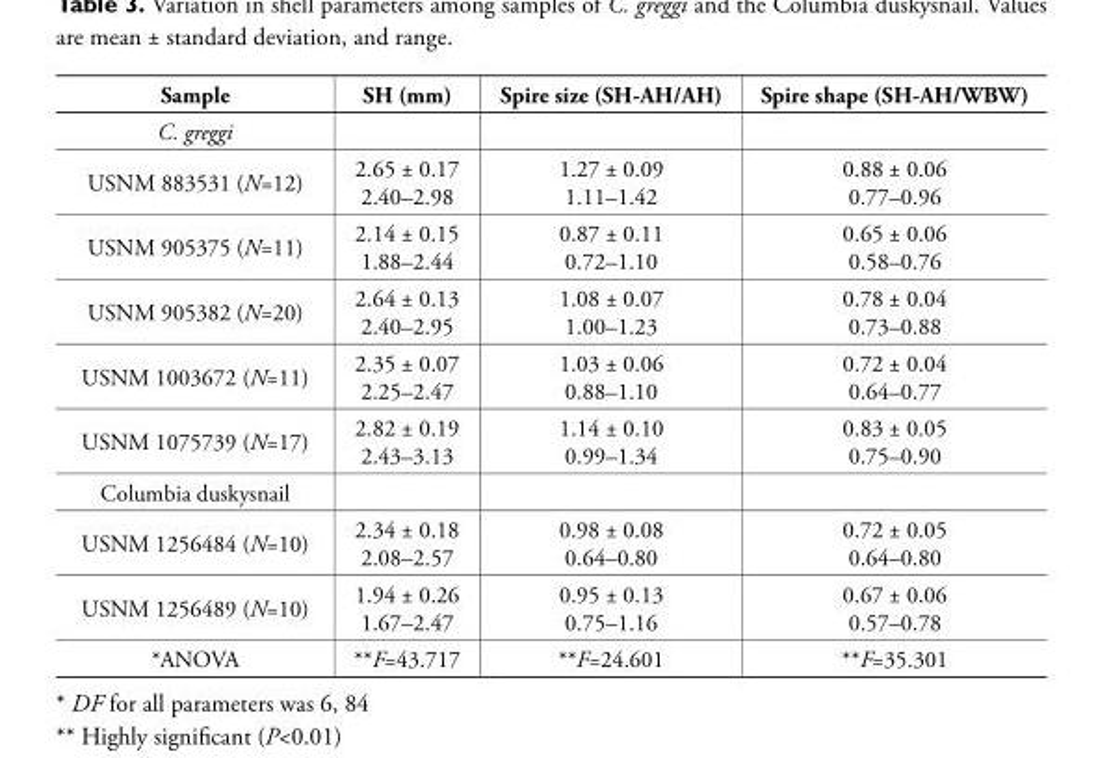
<table><tbody><tr><td>Sample</td><td>SH (mm)</td><td>Spire size (SH-AH/AH)</td><td>Spire shape (SH-AH/WBW)</td></tr><tr><td colspan="4">C. greggi</td></tr><tr><td>USNM 883531 (N=12)</td><td>2.65 ± 0.17 2.40–2.98</td><td>1.27 ± 0.09 1.11–1.42</td><td>0.88 ± 0.06 0.77–0.96</td></tr><tr><td>USNM 905375 (N=11)</td><td>2.14 ± 0.15 1.88–2.44</td><td>0.87 ± 0.11 0.72–1.10</td><td>0.65 ± 0.06 0.58–0.76</td></tr><tr><td>USNM 905382 (N=20)</td><td>2.64 ± 0.13 2.40–2.95</td><td>1.08 ± 0.07 1.00–1.23</td><td>0.78 ± 0.04 0.73–0.88</td></tr><tr><td>USNM 1003672 (N=11)</td><td>2.35 ± 0.07 2.25–2.47</td><td>1.03 ± 0.06 0.88–1.10</td><td>0.72 ± 0.04 0.64–0.77</td></tr><tr><td>USNM 1075739 (N=17)</td><td>2.82 ± 0.19 2.43–3.13</td><td>1.14 ± 0.10 0.99–1.34</td><td>0.83 ± 0.05 0.75–0.90</td></tr><tr><td colspan="4">Columbia duskysnail</td></tr><tr><td>USNM 1256484 (N=10)</td><td>2.34 ± 0.18 2.08–2.57</td><td>0.98 ± 0.08 0.64–0.80</td><td>0.72 ± 0.05 0.64–0.80</td></tr><tr><td>USNM 1256489 (N=10)</td><td>1.94 ± 0.26 1.67–2.47</td><td>0.95 ± 0.13 0.75–1.16</td><td>0.67 ± 0.06 0.57–0.78</td></tr><tr><td>*ANOVA</td><td>**F=43.717</td><td>**F=24.601</td><td>**F=35.301</td></tr></tbody></table>